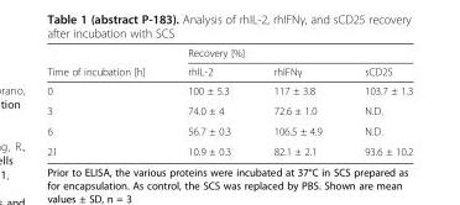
<table><thead><tr><td rowspan="2">Time of incubation [h]</td><td colspan="3">Recovery [%]</td></tr><tr><td>rhIL-2</td><td>rhIFNγ</td><td>sCD25</td></tr></thead><tbody><tr><td>0</td><td>100 ± 5.3</td><td>117 ± 3.8</td><td>103.7 ± 1.3</td></tr><tr><td>3</td><td>74.0 ± 4</td><td>72.6 ± 1.0</td><td>N.D.</td></tr><tr><td>6</td><td>56.7 ± 0.3</td><td>106.5 ± 4.9</td><td>N.D.</td></tr><tr><td>21</td><td>10.9 ± 0.3</td><td>82.1 ± 2.1</td><td>93.6 ± 10.2</td></tr></tbody></table>